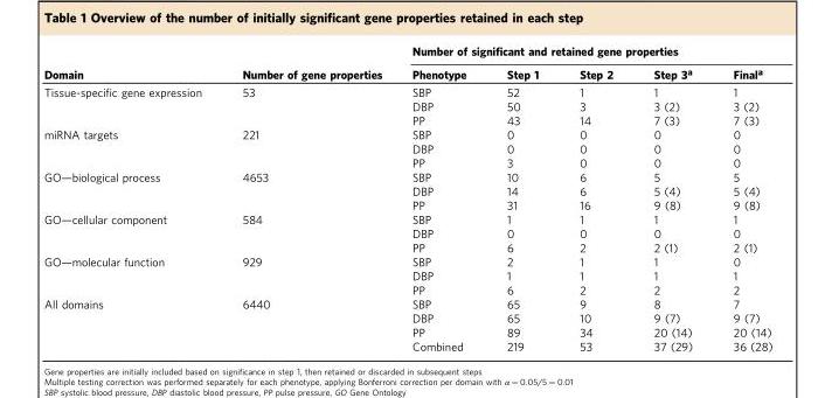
<table><thead><tr><td rowspan="2">Domain</td><td rowspan="2">Number of gene properties</td><td colspan="5">Number of significant and retained gene properties</td></tr><tr><td>Phenotype</td><td>Step 1</td><td>Step 2</td><td>Step 3<sup>a</sup></td><td>Final<sup>a</sup></td></tr></thead><tbody><tr><td rowspan="3">Tissue-specific gene expression</td><td rowspan="3">53</td><td>SBP</td><td>52</td><td>1</td><td>1</td><td>1</td></tr><tr><td>DBP</td><td>50</td><td>3</td><td>3 (2)</td><td>3 (2)</td></tr><tr><td>PP</td><td>43</td><td>14</td><td>7 (3)</td><td>7 (3)</td></tr><tr><td rowspan="3">miRNA targets</td><td rowspan="3">221</td><td>SBP</td><td>0</td><td>0</td><td>0</td><td>0</td></tr><tr><td>DBP</td><td>0</td><td>0</td><td>0</td><td>0</td></tr><tr><td>PP</td><td>3</td><td>0</td><td>0</td><td>0</td></tr><tr><td rowspan="3">GO—biological process</td><td rowspan="3">4653</td><td>SBP</td><td>10</td><td>6</td><td>5</td><td>5</td></tr><tr><td>DBP</td><td>14</td><td>6</td><td>5 (4)</td><td>5 (4)</td></tr><tr><td>PP</td><td>31</td><td>16</td><td>9 (8)</td><td>9 (8)</td></tr><tr><td rowspan="3">GO—cellular component</td><td rowspan="3">584</td><td>SBP</td><td>1</td><td>1</td><td>1</td><td>1</td></tr><tr><td>DBP</td><td>0</td><td>0</td><td>0</td><td>0</td></tr><tr><td>PP</td><td>6</td><td>2</td><td>2 (1)</td><td>2 (1)</td></tr><tr><td rowspan="3">GO—molecular function</td><td rowspan="3">929</td><td>SBP</td><td>2</td><td>1</td><td>1</td><td>0</td></tr><tr><td>DBP</td><td>1</td><td>1</td><td>1</td><td>1</td></tr><tr><td>PP</td><td>6</td><td>2</td><td>2</td><td>2</td></tr><tr><td rowspan="4">All domains</td><td rowspan="4">6440</td><td>SBP</td><td>65</td><td>9</td><td>8</td><td>7</td></tr><tr><td>DBP</td><td>65</td><td>10</td><td>9 (7)</td><td>9 (7)</td></tr><tr><td>PP</td><td>89</td><td>34</td><td>20 (14)</td><td>20 (14)</td></tr><tr><td>Combined</td><td>219</td><td>53</td><td>37 (29)</td><td>36 (28)</td></tr></tbody></table>